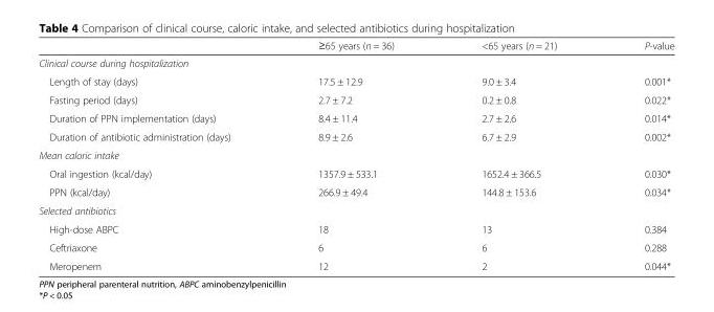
<table><thead><tr><td></td><td>≥65 years (n = 36)</td><td>&lt;65 years (n = 21)</td><td>P-value</td></tr></thead><tbody><tr><td colspan="4">Clinical course during hospitalization</td></tr><tr><td>Length of stay (days)</td><td>17.5 ± 12.9</td><td>9.0 ± 3.4</td><td>0.001*</td></tr><tr><td>Fasting period (days)</td><td>2.7 ± 7.2</td><td>0.2 ± 0.8</td><td>0.022*</td></tr><tr><td>Duration of PPN implementation (days)</td><td>8.4 ± 11.4</td><td>2.7 ± 2.6</td><td>0.014*</td></tr><tr><td>Duration of antibiotic administration (days)</td><td>8.9 ± 2.6</td><td>6.7 ± 2.9</td><td>0.002*</td></tr><tr><td colspan="4">Mean caloric intake</td></tr><tr><td>Oral ingestion (kcal/day)</td><td>1357.9 ± 533.1</td><td>1652.4 ± 366.5</td><td>0.030*</td></tr><tr><td>PPN (kcal/day)</td><td>266.9 ± 49.4</td><td>144.8 ± 153.6</td><td>0.034*</td></tr><tr><td colspan="4">Selected antibiotics</td></tr><tr><td>High-dose ABPC</td><td>18</td><td>13</td><td>0.384</td></tr><tr><td>Ceftriaxone</td><td>6</td><td>6</td><td>0.288</td></tr><tr><td>Meropenem</td><td>12</td><td>2</td><td>0.044*</td></tr></tbody></table>